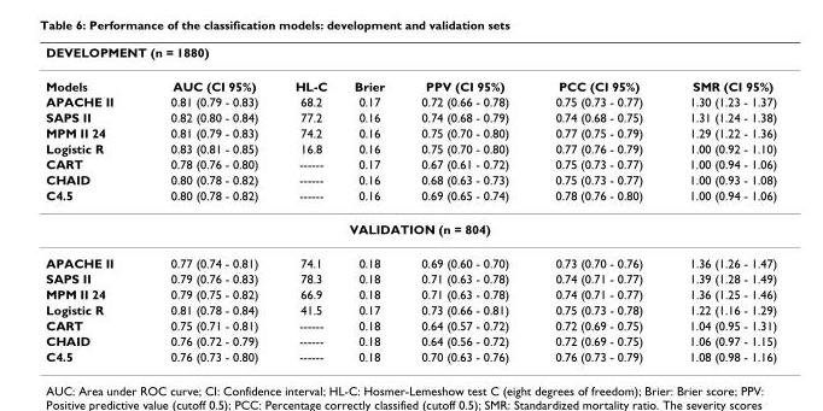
<table><thead><tr><td colspan="7">DEVELOPMENT (n = 1880)</td></tr><tr><td>Models</td><td>AUC (CI 95%)</td><td>HL-C</td><td>Brier</td><td>PPV (CI 95%)</td><td>PCC (CI 95%)</td><td>SMR (CI 95%)</td></tr></thead><tbody><tr><td>APACHE II</td><td>0.81 (0.79 - 0.83)</td><td>68.2</td><td>0.17</td><td>0.72 (0.66 - 0.78)</td><td>0.75 (0.73 - 0.77)</td><td>1.30 (1.23 - 1.37)</td></tr><tr><td>SAPS II</td><td>0.82 (0.80 - 0.84)</td><td>77.2</td><td>0.16</td><td>0.74 (0.68 - 0.79)</td><td>0.74 (0.68 - 0.75)</td><td>1.31 (1.24 - 1.38)</td></tr><tr><td>MPM II 24</td><td>0.81 (0.79 - 0.83)</td><td>74.2</td><td>0.16</td><td>0.75 (0.70 - 0.80)</td><td>0.77 (0.75 - 0.79)</td><td>1.29 (1.22 - 1.36)</td></tr><tr><td>Logistic R</td><td>0.83 (0.81 - 0.85)</td><td>16.8</td><td>0.16</td><td>0.75 (0.70 - 0.80)</td><td>0.77 (0.76 - 0.79)</td><td>1.00 (0.92 - 1.10)</td></tr><tr><td>CART</td><td>0.78 (0.76 - 0.80)</td><td>------</td><td>0.17</td><td>0.67 (0.61 - 0.72)</td><td>0.75 (0.73 - 0.77)</td><td>1.00 (0.94 - 1.06)</td></tr><tr><td>CHAID</td><td>0.80 (0.78 - 0.82)</td><td>------</td><td>0.16</td><td>0.68 (0.63 - 0.73)</td><td>0.75 (0.73 - 0.77)</td><td>1.00 (0.93 - 1.08)</td></tr><tr><td>C4.5</td><td>0.80 (0.78 - 0.82)</td><td>------</td><td>0.16</td><td>0.69 (0.65 - 0.74)</td><td>0.78 (0.76 - 0.80)</td><td>1.00 (0.94 - 1.06)</td></tr><tr><td colspan="7">VALIDATION (n = 804)</td></tr><tr><td>APACHE II</td><td>0.77 (0.74 - 0.81)</td><td>74.1</td><td>0.18</td><td>0.69 (0.60 - 0.70)</td><td>0.73 (0.70 - 0.76)</td><td>1.36 (1.26 - 1.47)</td></tr><tr><td>SAPS II</td><td>0.79 (0.76 - 0.83)</td><td>78.3</td><td>0.18</td><td>0.71 (0.63 - 0.78)</td><td>0.74 (0.71 - 0.77)</td><td>1.39 (1.28 - 1.49)</td></tr><tr><td>MPM II 24</td><td>0.79 (0.75 - 0.82)</td><td>66.9</td><td>0.18</td><td>0.71 (0.63 - 0.78)</td><td>0.74 (0.71 - 0.77)</td><td>1.36 (1.25 - 1.46)</td></tr><tr><td>Logistic R</td><td>0.81 (0.78 - 0.84)</td><td>41.5</td><td>0.17</td><td>0.73 (0.66 - 0.81)</td><td>0.75 (0.73 - 0.78)</td><td>1.22 (1.16 - 1.29)</td></tr><tr><td>CART</td><td>0.75 (0.71 - 0.81)</td><td>------</td><td>0.18</td><td>0.64 (0.57 - 0.72)</td><td>0.72 (0.69 - 0.75)</td><td>1.04 (0.95 - 1.31)</td></tr><tr><td>CHAID</td><td>0.76 (0.72 - 0.79)</td><td>------</td><td>0.18</td><td>0.64 (0.56 - 0.72)</td><td>0.72 (0.69 - 0.75)</td><td>1.06 (0.97 - 1.15)</td></tr><tr><td>C4.5</td><td>0.76 (0.73 - 0.80)</td><td>------</td><td>0.18</td><td>0.70 (0.63 - 0.76)</td><td>0.76 (0.73 - 0.79)</td><td>1.08 (0.98 - 1.16)</td></tr></tbody></table>